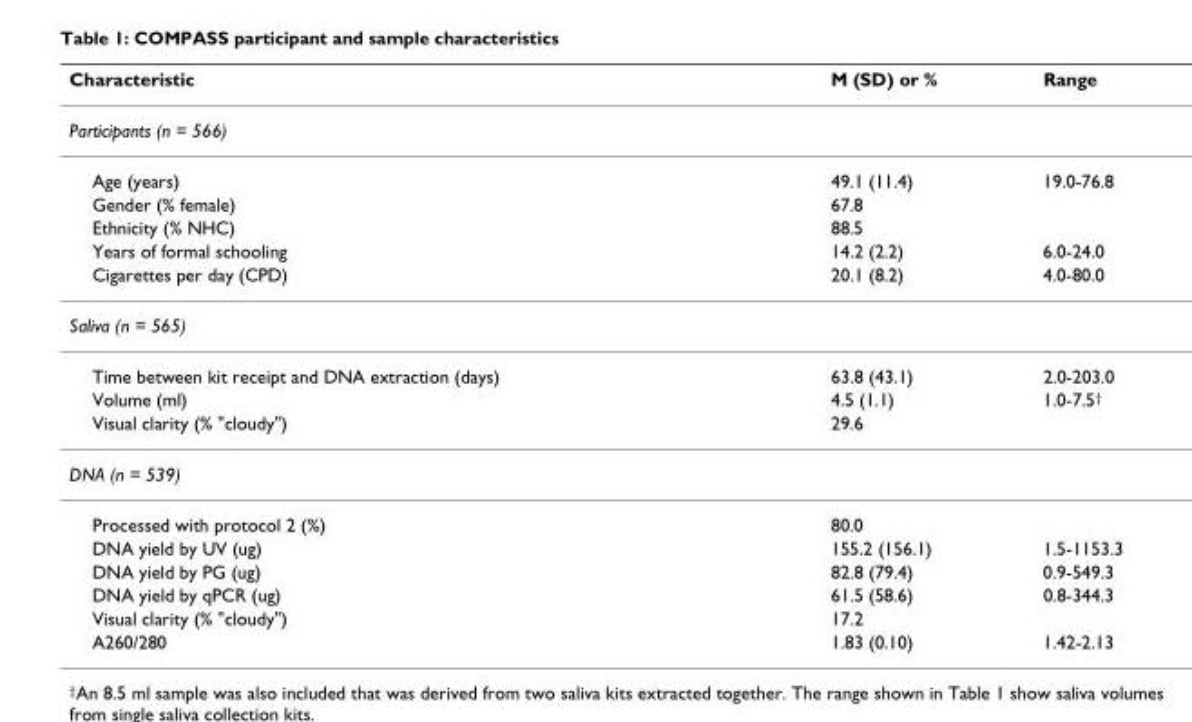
<table><thead><tr><td>Characteristic</td><td>M (SD) or %</td><td>Range</td></tr></thead><tbody><tr><td colspan="3">Participants (n = 566)</td></tr><tr><td>Age (years)</td><td>49.1 (11.4)</td><td>19.0-76.8</td></tr><tr><td>Gender (% female)</td><td>67.8</td><td></td></tr><tr><td>Ethnicity (% NHC)</td><td>88.5</td><td></td></tr><tr><td>Years of formal schooling</td><td>14.2 (2.2)</td><td>6.0-24.0</td></tr><tr><td>Cigarettes per day (CPD)</td><td>20.1 (8.2)</td><td>4.0-80.0</td></tr><tr><td colspan="3">Saliva (n = 565)</td></tr><tr><td>Time between kit receipt and DNA extraction (days)</td><td>63.8 (43.1)</td><td>2.0-203.0</td></tr><tr><td>Volume (ml)</td><td>4.5 (1.1)</td><td>1.0-7.5<sup>†</sup></td></tr><tr><td>Visual clarity (% &quot;cloudy&quot;)</td><td>29.6</td><td></td></tr><tr><td colspan="3">DNA (n = 539)</td></tr><tr><td>Processed with protocol 2 (%)</td><td>80.0</td><td></td></tr><tr><td>DNA yield by UV (ug)</td><td>155.2 (156.1)</td><td>1.5-1153.3</td></tr><tr><td>DNA yield by PG (ug)</td><td>82.8 (79.4)</td><td>0.9-549.3</td></tr><tr><td>DNA yield by qPCR (ug)</td><td>61.5 (58.6)</td><td>0.8-344.3</td></tr><tr><td>Visual clarity (% &quot;cloudy&quot;)</td><td>17.2</td><td></td></tr><tr><td>A260/280</td><td>1.83 (0.10)</td><td>1.42-2.13</td></tr></tbody></table>